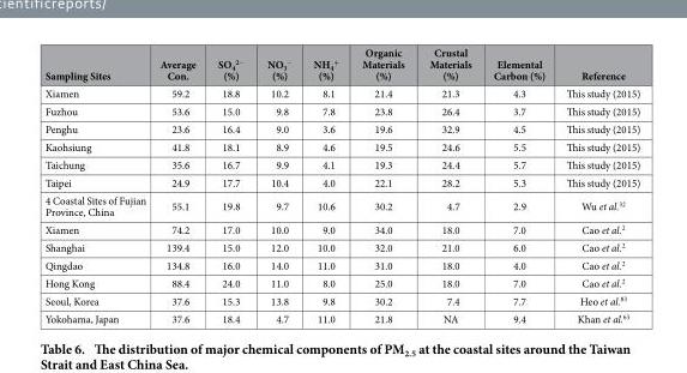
<table><thead><tr><td>Sampling Sites</td><td>Average Con.</td><td>SO<sub>4</sub> <sup>2−</sup> (%)</td><td>NO<sub>3</sub> <sup>−</sup> (%)</td><td>NH<sub>4</sub> <sup>+</sup> (%)</td><td>Organic Materials (%)</td><td>Crustal Materials (%)</td><td>Elemental Carbon (%)</td><td>Reference</td></tr></thead><tbody><tr><td>Xiamen</td><td>59.2</td><td>18.8</td><td>10.2</td><td>8.1</td><td>21.4</td><td>21.3</td><td>4.3</td><td>This study (2015)</td></tr><tr><td>Fuzhou</td><td>53.6</td><td>15.0</td><td>9.8</td><td>7.8</td><td>23.8</td><td>26.4</td><td>3.7</td><td>This study (2015)</td></tr><tr><td>Penghu</td><td>23.6</td><td>16.4</td><td>9.0</td><td>3.6</td><td>19.6</td><td>32.9</td><td>4.5</td><td>This study (2015)</td></tr><tr><td>Kaohsiung</td><td>41.8</td><td>18.1</td><td>8.9</td><td>4.6</td><td>19.5</td><td>24.6</td><td>5.5</td><td>This study (2015)</td></tr><tr><td>Taichung</td><td>35.6</td><td>16.7</td><td>9.9</td><td>4.1</td><td>19.3</td><td>24.4</td><td>5.7</td><td>This study (2015)</td></tr><tr><td>Taipei</td><td>24.9</td><td>17.7</td><td>10.4</td><td>4.0</td><td>22.1</td><td>28.2</td><td>5.3</td><td>This study (2015)</td></tr><tr><td>4 Coastal Sites of Fujian Province, China</td><td>55.1</td><td>19.8</td><td>9.7</td><td>10.6</td><td>30.2</td><td>4.7</td><td>2.9</td><td>Wu et al.<sup>32</sup></td></tr><tr><td>Xiamen</td><td>74.2</td><td>17.0</td><td>10.0</td><td>9.0</td><td>34.0</td><td>18.0</td><td>7.0</td><td>Cao et al.<sup>2</sup></td></tr><tr><td>Shanghai</td><td>139.4</td><td>15.0</td><td>12.0</td><td>10.0</td><td>32.0</td><td>21.0</td><td>6.0</td><td>Cao et al.<sup>2</sup></td></tr><tr><td>Qingdao</td><td>134.8</td><td>16.0</td><td>14.0</td><td>11.0</td><td>31.0</td><td>18.0</td><td>4.0</td><td>Cao et al.<sup>2</sup></td></tr><tr><td>Hong Kong</td><td>88.4</td><td>24.0</td><td>11.0</td><td>8.0</td><td>25.0</td><td>18.0</td><td>7.0</td><td>Cao et al.<sup>2</sup></td></tr><tr><td>Seoul, Korea</td><td>37.6</td><td>15.3</td><td>13.8</td><td>9.8</td><td>30.2</td><td>7.4</td><td>7.7</td><td>Heo et al.<sup>83</sup></td></tr><tr><td>Yokohama, Japan</td><td>37.6</td><td>18.4</td><td>4.7</td><td>11.0</td><td>21.8</td><td>NA</td><td>9.4</td><td>Khan et al.<sup>63</sup></td></tr></tbody></table>